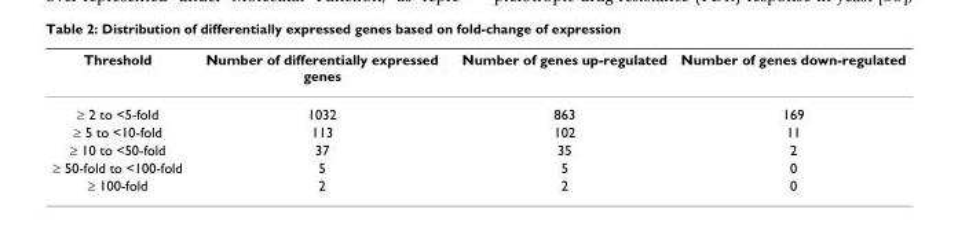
<table><thead><tr><td>Threshold</td><td>Number of differentially expressed genes</td><td>Number of genes up-regulated</td><td>Number of genes down-regulated</td></tr></thead><tbody><tr><td>≥ 2 to &lt;5-fold</td><td>1032</td><td>863</td><td>169</td></tr><tr><td>≥ 5 to &lt;10-fold</td><td>113</td><td>102</td><td>11</td></tr><tr><td>≥ 10 to &lt;50-fold</td><td>37</td><td>35</td><td>2</td></tr><tr><td>≥ 50-fold to &lt;100-fold</td><td>5</td><td>5</td><td>0</td></tr><tr><td>≥ 100-fold</td><td>2</td><td>2</td><td>0</td></tr></tbody></table>